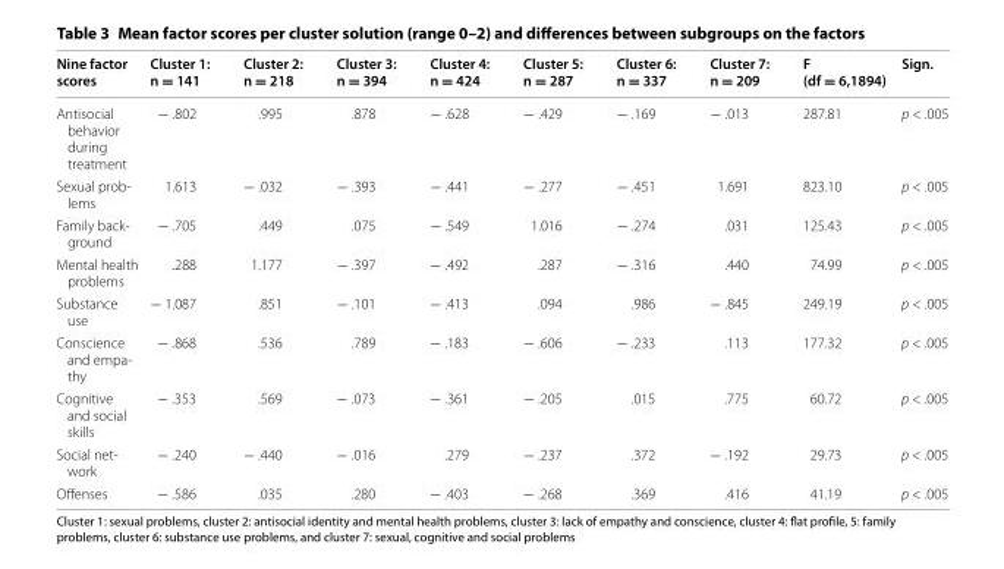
<table><thead><tr><td>Nine factor scores</td><td>Cluster 1: n = 141</td><td>Cluster 2: n = 218</td><td>Cluster 3: n = 394</td><td>Cluster 4: n = 424</td><td>Cluster 5: n = 287</td><td>Cluster 6: n = 337</td><td>Cluster 7: n = 209</td><td>F (df = 6,1894)</td><td>Sign.</td></tr></thead><tbody><tr><td>Antisocial behavior during treatment</td><td>− .802</td><td>.995</td><td>.878</td><td>− .628</td><td>− .429</td><td>− .169</td><td>− .013</td><td>287.81</td><td>p &lt; .005</td></tr><tr><td>Sexual prob- lems</td><td>1.613</td><td>− .032</td><td>− .393</td><td>− .441</td><td>− .277</td><td>− .451</td><td>1.691</td><td>823.10</td><td>p &lt; .005</td></tr><tr><td>Family back- ground</td><td>− .705</td><td>.449</td><td>.075</td><td>− .549</td><td>1.016</td><td>− .274</td><td>.031</td><td>125.43</td><td>p &lt; .005</td></tr><tr><td>Mental health problems</td><td>.288</td><td>1.177</td><td>− .397</td><td>− .492</td><td>.287</td><td>− .316</td><td>.440</td><td>74.99</td><td>p &lt; .005</td></tr><tr><td>Substance use</td><td>− 1.087</td><td>.851</td><td>− .101</td><td>− .413</td><td>.094</td><td>.986</td><td>− .845</td><td>249.19</td><td>p &lt; .005</td></tr><tr><td>Conscience and empa- thy</td><td>− .868</td><td>.536</td><td>.789</td><td>− .183</td><td>− .606</td><td>− .233</td><td>.113</td><td>177.32</td><td>p &lt; .005</td></tr><tr><td>Cognitive and social skills</td><td>− .353</td><td>.569</td><td>− .073</td><td>− .361</td><td>− .205</td><td>.015</td><td>.775</td><td>60.72</td><td>p &lt; .005</td></tr><tr><td>Social net- work</td><td>− .240</td><td>− .440</td><td>− .016</td><td>.279</td><td>− .237</td><td>.372</td><td>− .192</td><td>29.73</td><td>p &lt; .005</td></tr><tr><td>Offenses</td><td>− .586</td><td>.035</td><td>.280</td><td>− .403</td><td>− .268</td><td>.369</td><td>.416</td><td>41.19</td><td>p &lt; .005</td></tr></tbody></table>